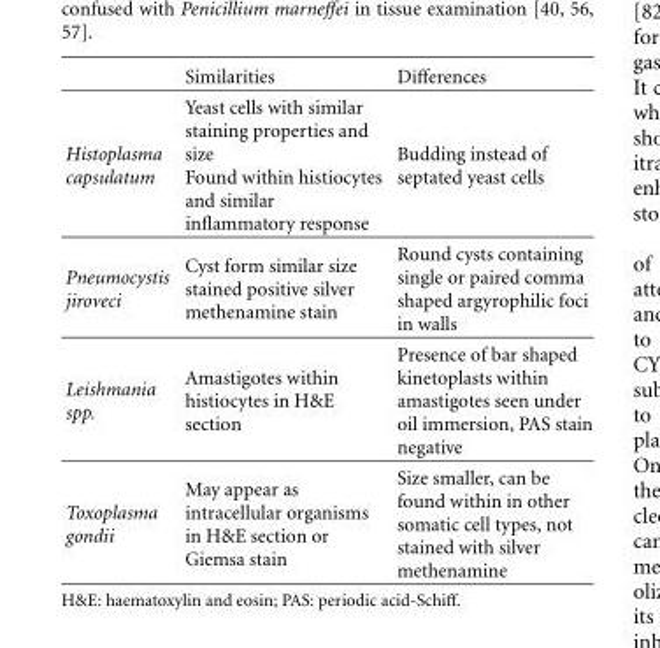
<table><thead><tr><td></td><td>Similarities</td><td>Differences</td></tr></thead><tbody><tr><td>Histoplasma capsulatum</td><td>Yeast cells with similar staining properties and size Found within histiocytes and similar inflammatory response</td><td>Budding instead of septated yeast cells</td></tr><tr><td>Pneumocystis jiroveci</td><td>Cyst form similar size stained positive silver methenamine stain</td><td>Round cysts containing single or paired comma shaped argyrophilic foci in walls</td></tr><tr><td>Leishmania spp.</td><td>Amastigotes within histiocytes in H&amp;E section</td><td>Presence of bar shaped kinetoplasts within amastigotes seen under oil immersion, PAS stain negative</td></tr><tr><td>Toxoplasma gondii</td><td>May appear as intracellular organisms in H&amp;E section or Giemsa stain</td><td>Size smaller, can be found within in other somatic cell types, not stained with silver methenamine</td></tr></tbody></table>